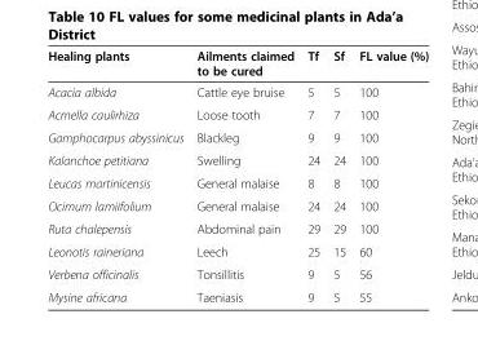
<table><thead><tr><td>Healing plants</td><td>Ailments claimed to be cured</td><td>Tf</td><td>Sf</td><td>FL value (%)</td></tr></thead><tbody><tr><td>Acacia albida</td><td>Cattle eye bruise</td><td>5</td><td>5</td><td>100</td></tr><tr><td>Acmella caulirhiza</td><td>Loose tooth</td><td>7</td><td>7</td><td>100</td></tr><tr><td>Gamphocarpus abyssinicus</td><td>Blackleg</td><td>9</td><td>9</td><td>100</td></tr><tr><td>Kalanchoe petitiana</td><td>Swelling</td><td>24</td><td>24</td><td>100</td></tr><tr><td>Leucas martinicensis</td><td>General malaise</td><td>8</td><td>8</td><td>100</td></tr><tr><td>Ocimum lamiifolium</td><td>General malaise</td><td>24</td><td>24</td><td>100</td></tr><tr><td>Ruta chalepensis</td><td>Abdominal pain</td><td>29</td><td>29</td><td>100</td></tr><tr><td>Leonotis raineriana</td><td>Leech</td><td>25</td><td>15</td><td>60</td></tr><tr><td>Verbena officinalis</td><td>Tonsillitis</td><td>9</td><td>5</td><td>56</td></tr><tr><td>Mysine africana</td><td>Taeniasis</td><td>9</td><td>5</td><td>55</td></tr></tbody></table>